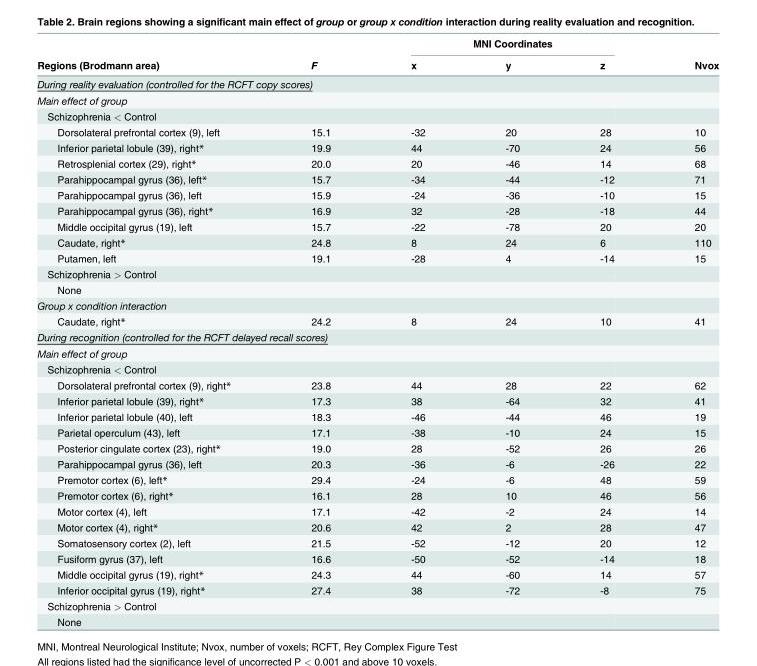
<table><thead><tr><td rowspan="2">Regions (Brodmann area)</td><td rowspan="2">F</td><td colspan="3">MNI Coordinates</td><td rowspan="2">Nvox</td></tr><tr><td>x</td><td>y</td><td>z</td></tr></thead><tbody><tr><td colspan="6">During reality evaluation (controlled for the RCFT copy scores)</td></tr><tr><td colspan="6">Main effect of group</td></tr><tr><td colspan="6">Schizophrenia &lt; Control</td></tr><tr><td>Dorsolateral prefrontal cortex (9), left</td><td>15.1</td><td>-32</td><td>20</td><td>28</td><td>10</td></tr><tr><td>Inferior parietal lobule (39), right*</td><td>19.9</td><td>44</td><td>-70</td><td>24</td><td>56</td></tr><tr><td>Retrosplenial cortex (29), right*</td><td>20.0</td><td>20</td><td>-46</td><td>14</td><td>68</td></tr><tr><td>Parahippocampal gyrus (36), left*</td><td>15.7</td><td>-34</td><td>-44</td><td>-12</td><td>71</td></tr><tr><td>Parahippocampal gyrus (36), left</td><td>15.9</td><td>-24</td><td>-36</td><td>-10</td><td>15</td></tr><tr><td>Parahippocampal gyrus (36), right*</td><td>16.9</td><td>32</td><td>-28</td><td>-18</td><td>44</td></tr><tr><td>Middle occipital gyrus (19), left</td><td>15.7</td><td>-22</td><td>-78</td><td>20</td><td>20</td></tr><tr><td>Caudate, right*</td><td>24.8</td><td>8</td><td>24</td><td>6</td><td>110</td></tr><tr><td>Putamen, left</td><td>19.1</td><td>-28</td><td>4</td><td>-14</td><td>15</td></tr><tr><td colspan="6">Schizophrenia &gt; Control</td></tr><tr><td colspan="6">None</td></tr><tr><td colspan="6">Group x condition interaction</td></tr><tr><td>Caudate, right*</td><td>24.2</td><td>8</td><td>24</td><td>10</td><td>41</td></tr><tr><td colspan="6">During recognition (controlled for the RCFT delayed recall scores)</td></tr><tr><td colspan="6">Main effect of group</td></tr><tr><td colspan="6">Schizophrenia &lt; Control</td></tr><tr><td>Dorsolateral prefrontal cortex (9), right*</td><td>23.8</td><td>44</td><td>28</td><td>22</td><td>62</td></tr><tr><td>Inferior parietal lobule (39), right*</td><td>17.3</td><td>38</td><td>-64</td><td>32</td><td>41</td></tr><tr><td>Inferior parietal lobule (40), left</td><td>18.3</td><td>-46</td><td>-44</td><td>46</td><td>19</td></tr><tr><td>Parietal operculum (43), left</td><td>17.1</td><td>-38</td><td>-10</td><td>24</td><td>15</td></tr><tr><td>Posterior cingulate cortex (23), right*</td><td>19.0</td><td>28</td><td>-52</td><td>26</td><td>26</td></tr><tr><td>Parahippocampal gyrus (36), left</td><td>20.3</td><td>-36</td><td>-6</td><td>-26</td><td>22</td></tr><tr><td>Premotor cortex (6), left*</td><td>29.4</td><td>-24</td><td>-6</td><td>48</td><td>59</td></tr><tr><td>Premotor cortex (6), right*</td><td>16.1</td><td>28</td><td>10</td><td>46</td><td>56</td></tr><tr><td>Motor cortex (4), left</td><td>17.1</td><td>-42</td><td>-2</td><td>24</td><td>14</td></tr><tr><td>Motor cortex (4), right*</td><td>20.6</td><td>42</td><td>2</td><td>28</td><td>47</td></tr><tr><td>Somatosensory cortex (2), left</td><td>21.5</td><td>-52</td><td>-12</td><td>20</td><td>12</td></tr><tr><td>Fusiform gyrus (37), left</td><td>16.6</td><td>-50</td><td>-52</td><td>-14</td><td>18</td></tr><tr><td>Middle occipital gyrus (19), right*</td><td>24.3</td><td>44</td><td>-60</td><td>14</td><td>57</td></tr><tr><td>Inferior occipital gyrus (19), right*</td><td>27.4</td><td>38</td><td>-72</td><td>-8</td><td>75</td></tr><tr><td colspan="6">Schizophrenia &gt; Control</td></tr><tr><td>None</td><td></td><td></td><td></td><td></td><td></td></tr></tbody></table>